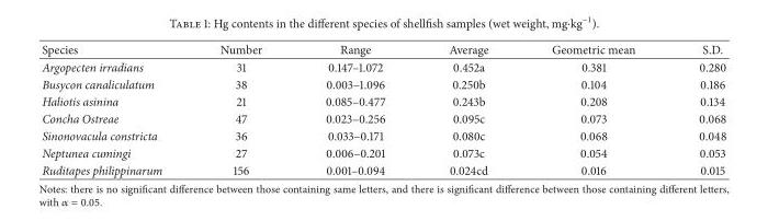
<table><thead><tr><td>Species</td><td>Number</td><td>Range</td><td>Average</td><td>Geometric mean</td><td>S.D.</td></tr></thead><tbody><tr><td>Argopecten irradians</td><td>31</td><td>0.147–1.072</td><td>0.452a</td><td>0.381</td><td>0.280</td></tr><tr><td>Busycon canaliculatum</td><td>38</td><td>0.003–1.096</td><td>0.250b</td><td>0.104</td><td>0.186</td></tr><tr><td>Haliotis asinina</td><td>21</td><td>0.085–0.477</td><td>0.243b</td><td>0.208</td><td>0.134</td></tr><tr><td>Concha Ostreae</td><td>47</td><td>0.023–0.256</td><td>0.095c</td><td>0.073</td><td>0.068</td></tr><tr><td>Sinonovacula constricta</td><td>36</td><td>0.033–0.171</td><td>0.080c</td><td>0.068</td><td>0.048</td></tr><tr><td>Neptunea cumingi</td><td>27</td><td>0.006–0.201</td><td>0.073c</td><td>0.054</td><td>0.053</td></tr><tr><td>Ruditapes philippinarum</td><td>156</td><td>0.001–0.094</td><td>0.024cd</td><td>0.016</td><td>0.015</td></tr></tbody></table>